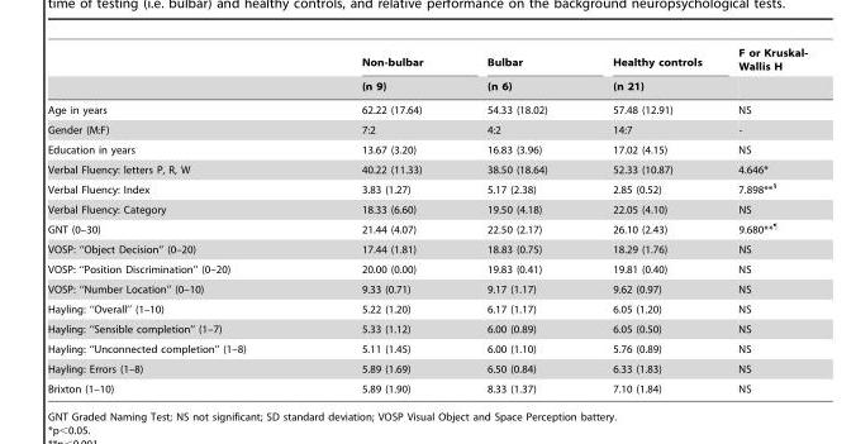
<table><thead><tr><td rowspan="2"></td><td rowspan="2">Non-bulbar (n 9)</td><td rowspan="2">Bulbar (n 6)</td><td rowspan="2">Healthy controls (n 21)</td><td rowspan="2">F or Kruskal- Wallis H</td></tr><tr></tr></thead><tbody><tr><td>Age in years</td><td>62.22 (17.64)</td><td>54.33 (18.02)</td><td>57.48 (12.91)</td><td>NS</td></tr><tr><td>Gender (M:F)</td><td>7:2</td><td>4:2</td><td>14:7</td><td>-</td></tr><tr><td>Education in years</td><td>13.67 (3.20)</td><td>16.83 (3.96)</td><td>17.02 (4.15)</td><td>NS</td></tr><tr><td>Verbal Fluency: letters P, R, W</td><td>40.22 (11.33)</td><td>38.50 (18.64)</td><td>52.33 (10.87)</td><td>4.646*</td></tr><tr><td>Verbal Fluency: Index</td><td>3.83 (1.27)</td><td>5.17 (2.38)</td><td>2.85 (0.52)</td><td>7.898**§</td></tr><tr><td>Verbal Fluency: Category</td><td>18.33 (6.60)</td><td>19.50 (4.18)</td><td>22.05 (4.10)</td><td>NS</td></tr><tr><td>GNT (0–30)</td><td>21.44 (4.07)</td><td>22.50 (2.17)</td><td>26.10 (2.43)</td><td>9.680**¶</td></tr><tr><td>VOSP: ‘‘Object Decision’’ (0–20)</td><td>17.44 (1.81)</td><td>18.83 (0.75)</td><td>18.29 (1.76)</td><td>NS</td></tr><tr><td>VOSP: ‘‘Position Discrimination’’ (0–20)</td><td>20.00 (0.00)</td><td>19.83 (0.41)</td><td>19.81 (0.40)</td><td>NS</td></tr><tr><td>VOSP: ‘‘Number Location’’ (0–10)</td><td>9.33 (0.71)</td><td>9.17 (1.17)</td><td>9.62 (0.97)</td><td>NS</td></tr><tr><td>Hayling: ‘‘Overall’’ (1–10)</td><td>5.22 (1.20)</td><td>6.17 (1.17)</td><td>6.05 (1.20)</td><td>NS</td></tr><tr><td>Hayling: ‘‘Sensible completion’’ (1–7)</td><td>5.33 (1.12)</td><td>6.00 (0.89)</td><td>6.05 (0.50)</td><td>NS</td></tr><tr><td>Hayling: ‘‘Unconnected completion’’ (1–8)</td><td>5.11 (1.45)</td><td>6.00 (1.10)</td><td>5.76 (0.89)</td><td>NS</td></tr><tr><td>Hayling: Errors (1–8)</td><td>5.89 (1.69)</td><td>6.50 (0.84)</td><td>6.33 (1.83)</td><td>NS</td></tr><tr><td>Brixton (1–10)</td><td>5.89 (1.90)</td><td>8.33 (1.37)</td><td>7.10 (1.84)</td><td>NS</td></tr></tbody></table>